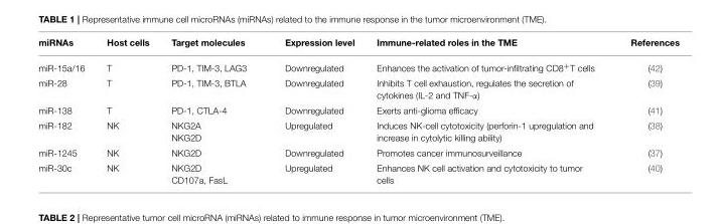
<table><thead><tr><td>miRNAs</td><td>Host cells</td><td>Target molecules</td><td>Expression level</td><td>Immune-related roles in the TME</td><td>References</td></tr></thead><tbody><tr><td>miR-15a/16</td><td>T</td><td>PD-1, TIM-3, LAG3</td><td>Downregulated</td><td>Enhances the activation of tumor-infiltrating CD8<sup>+</sup>T cells</td><td>(42)</td></tr><tr><td>miR-28</td><td>T</td><td>PD-1, TIM-3, BTLA</td><td>Downregulated</td><td>Inhibits T cell exhaustion, regulates the secretion of cytokines (IL-2 and TNF-α)</td><td>(39)</td></tr><tr><td>miR-138</td><td>T</td><td>PD-1, CTLA-4</td><td>Downregulated</td><td>Exerts anti-glioma efficacy</td><td>(41)</td></tr><tr><td>miR-182</td><td>NK</td><td>NKG2A NKG2D</td><td>Upregulated</td><td>Induces NK-cell cytotoxicity (perforin-1 upregulation and increase in cytolytic killing ability)</td><td>(38)</td></tr><tr><td>miR-1245</td><td>NK</td><td>NKG2D</td><td>Downregulated</td><td>Promotes cancer immunosurveillance</td><td>(37)</td></tr><tr><td>miR-30c</td><td>NK</td><td>NKG2D CD107a, FasL</td><td>Upregulated</td><td>Enhances NK cell activation and cytotoxicity to tumor cells</td><td>(40)</td></tr></tbody></table>